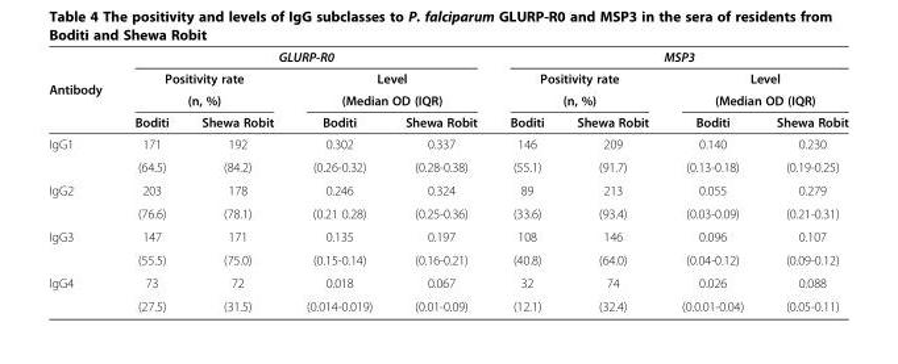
<table><thead><tr><td rowspan="4">Antibody</td><td colspan="4">GLURP-R0</td><td colspan="4">MSP3</td></tr><tr><td rowspan="2" colspan="2">Positivity rate (n, %)</td><td rowspan="2" colspan="2">Level (Median OD (IQR)</td><td rowspan="2" colspan="2">Positivity rate (n, %)</td><td rowspan="2" colspan="2">Level (Median OD (IQR)</td></tr><tr></tr><tr><td>Boditi</td><td>Shewa Robit</td><td>Boditi</td><td>Shewa Robit</td><td>Boditi</td><td>Shewa Robit</td><td>Boditi</td><td>Shewa Robit</td></tr></thead><tbody><tr><td rowspan="2">IgG1</td><td>171</td><td>192</td><td>0.302</td><td>0.337</td><td>146</td><td>209</td><td>0.140</td><td>0.230</td></tr><tr><td>(64.5)</td><td>(84.2)</td><td>(0.26-0.32)</td><td>(0.28-0.38)</td><td>(55.1)</td><td>(91.7)</td><td>(0.13-0.18)</td><td>(0.19-0.25)</td></tr><tr><td rowspan="2">IgG2</td><td>203</td><td>178</td><td>0.246</td><td>0.324</td><td>89</td><td>213</td><td>0.055</td><td>0.279</td></tr><tr><td>(76.6)</td><td>(78.1)</td><td>(0.21 0.28)</td><td>(0.25-0.36)</td><td>(33.6)</td><td>(93.4)</td><td>(0.03-0.09)</td><td>(0.21-0.31)</td></tr><tr><td rowspan="2">IgG3</td><td>147</td><td>171</td><td>0.135</td><td>0.197</td><td>108</td><td>146</td><td>0.096</td><td>0.107</td></tr><tr><td>(55.5)</td><td>(75.0)</td><td>(0.15-0.14)</td><td>(0.16-0.21)</td><td>(40.8)</td><td>(64.0)</td><td>(0.04-0.12)</td><td>(0.09-0.12)</td></tr><tr><td rowspan="2">IgG4</td><td>73</td><td>72</td><td>0.018</td><td>0.067</td><td>32</td><td>74</td><td>0.026</td><td>0.088</td></tr><tr><td>(27.5)</td><td>(31.5)</td><td>(0.014-0.019)</td><td>(0.01-0.09)</td><td>(12.1)</td><td>(32.4)</td><td>(0.0.01-0.04)</td><td>(0.05-0.11)</td></tr></tbody></table>